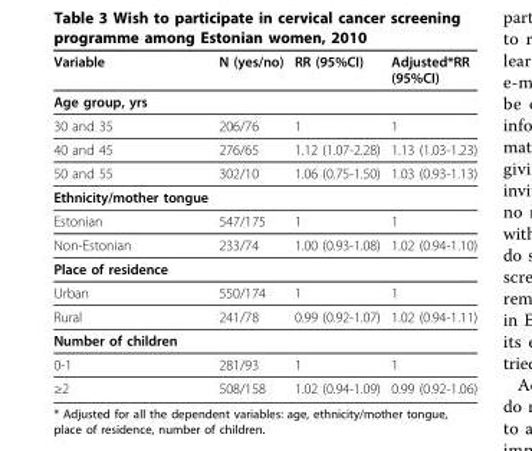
<table><thead><tr><td>Variable</td><td>N (yes/no)</td><td>RR (95%CI)</td><td>Adjusted*RR (95%CI)</td></tr></thead><tbody><tr><td colspan="4">Age group, yrs</td></tr><tr><td>30 and 35</td><td>206/76</td><td>1</td><td>1</td></tr><tr><td>40 and 45</td><td>276/65</td><td>1.12 (1.07-2.28)</td><td>1.13 (1.03-1.23)</td></tr><tr><td>50 and 55</td><td>302/10</td><td>1.06 (0.75-1.50)</td><td>1.03 (0.93-1.13)</td></tr><tr><td colspan="4">Ethnicity/mother tongue</td></tr><tr><td>Estonian</td><td>547/175</td><td>1</td><td>1</td></tr><tr><td>Non-Estonian</td><td>233/74</td><td>1.00 (0.93-1.08)</td><td>1.02 (0.94-1.10)</td></tr><tr><td colspan="4">Place of residence</td></tr><tr><td>Urban</td><td>550/174</td><td>1</td><td>1</td></tr><tr><td>Rural</td><td>241/78</td><td>0.99 (0.92-1.07)</td><td>1.02 (0.94-1.11)</td></tr><tr><td colspan="4">Number of children</td></tr><tr><td>0-1</td><td>281/93</td><td>1</td><td>1</td></tr><tr><td>≥2</td><td>508/158</td><td>1.02 (0.94-1.09)</td><td>0.99 (0.92-1.06)</td></tr></tbody></table>